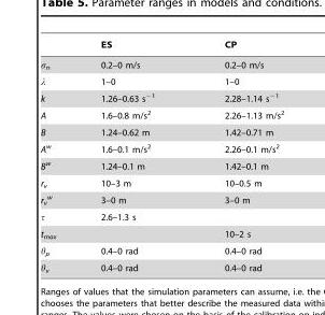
<table><thead><tr><td></td><td>ES</td><td>CP</td></tr></thead><tbody><tr><td>σ<sub>n</sub></td><td>0.2–0 m/s</td><td>0.2–0 m/s</td></tr><tr><td>λ</td><td>1–0</td><td>1–0</td></tr><tr><td>k</td><td>1.26–0.63 s<sup>−1</sup></td><td>2.28–1.14 s<sup>−1</sup></td></tr><tr><td>A</td><td>1.6–0.8 m/s<sup>2</sup></td><td>2.26–1.13 m/s<sup>2</sup></td></tr><tr><td>B</td><td>1.24–0.62 m</td><td>1.42–0.71 m</td></tr><tr><td>A<sup>w</sup></td><td>1.6–0.1 m/s<sup>2</sup></td><td>2.26–0.1 m/s<sup>2</sup></td></tr><tr><td>B<sup>w</sup></td><td>1.24–0.1 m</td><td>1.42–0.1 m</td></tr><tr><td>r<sub>v</sub></td><td>10–3 m</td><td>10–0.5 m</td></tr><tr><td>r<sub>v</sub> <sup>w</sup></td><td>3–0 m</td><td>3–0 m</td></tr><tr><td>τ</td><td>2.6–1.3 s</td><td></td></tr><tr><td>t<sub>max</sub></td><td></td><td>10–2 s</td></tr><tr><td>θ<sub>p</sub></td><td>0.4–0 rad</td><td>0.4–0 rad</td></tr><tr><td>θ<sub>v</sub></td><td>0.4–0 rad</td><td>0.4–0 rad</td></tr></tbody></table>